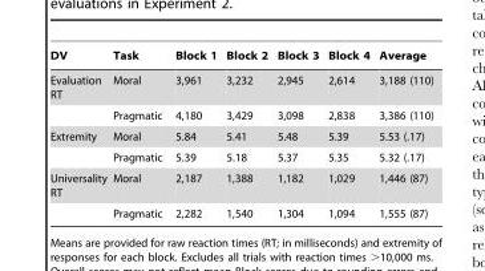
<table><thead><tr><td>DV</td><td>Task</td><td>Block 1</td><td>Block 2</td><td>Block 3</td><td>Block 4</td><td>Average</td></tr></thead><tbody><tr><td rowspan="2">Evaluation RT</td><td>Moral</td><td>3,961</td><td>3,232</td><td>2,945</td><td>2,614</td><td>3,188 (110)</td></tr><tr><td>Pragmatic</td><td>4,180</td><td>3,429</td><td>3,098</td><td>2,838</td><td>3,386 (110)</td></tr><tr><td rowspan="2">Extremity</td><td>Moral</td><td>5.84</td><td>5.41</td><td>5.48</td><td>5.39</td><td>5.53 (.17)</td></tr><tr><td>Pragmatic</td><td>5.39</td><td>5.18</td><td>5.37</td><td>5.35</td><td>5.32 (.17)</td></tr><tr><td rowspan="2">Universality RT</td><td>Moral</td><td>2,187</td><td>1,388</td><td>1,182</td><td>1,029</td><td>1,446 (87)</td></tr><tr><td>Pragmatic</td><td>2,282</td><td>1,540</td><td>1,304</td><td>1,094</td><td>1,555 (87)</td></tr></tbody></table>